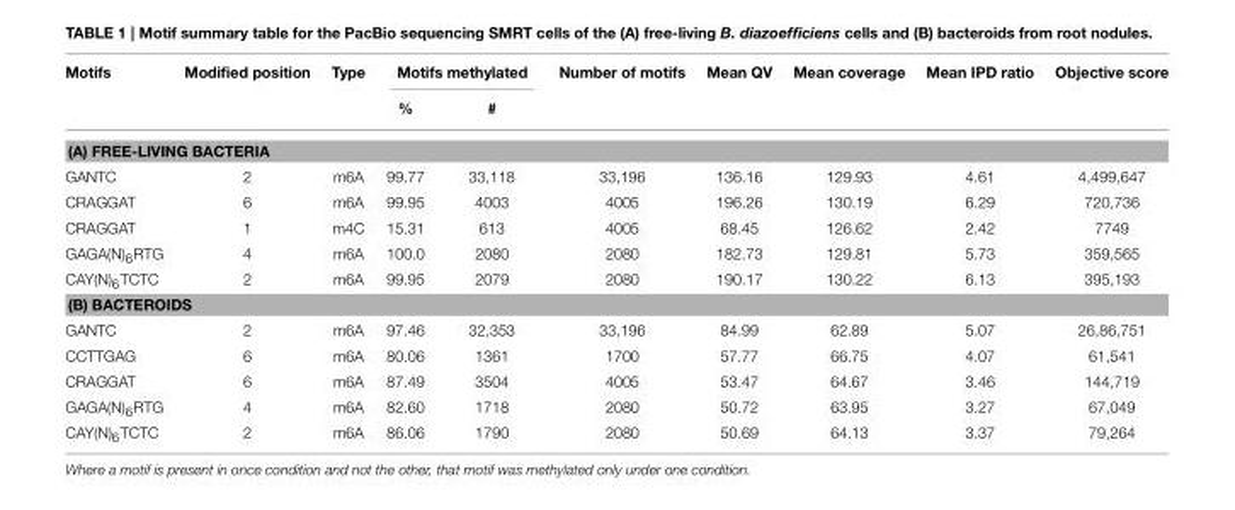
<table><thead><tr><td rowspan="2">Motifs</td><td rowspan="2">Modified position</td><td rowspan="2">Type</td><td colspan="2">Motifs methylated</td><td rowspan="2">Number of motifs</td><td rowspan="2">Mean QV</td><td rowspan="2">Mean coverage</td><td rowspan="2">Mean IPD ratio</td><td rowspan="2">Objective score</td></tr><tr><td>%</td><td>#</td></tr></thead><tbody><tr><td colspan="10">(A) FREE-LIVING BACTERIA</td></tr><tr><td>GANTC</td><td>2</td><td>m6A</td><td>99.77</td><td>33,118</td><td>33,196</td><td>136.16</td><td>129.93</td><td>4.61</td><td>4,499,647</td></tr><tr><td>CRAGGAT</td><td>6</td><td>m6A</td><td>99.95</td><td>4003</td><td>4005</td><td>196.26</td><td>130.19</td><td>6.29</td><td>720,736</td></tr><tr><td>CRAGGAT</td><td>1</td><td>m4C</td><td>15.31</td><td>613</td><td>4005</td><td>68.45</td><td>126.62</td><td>2.42</td><td>7749</td></tr><tr><td>GAGA(N)<sub>6</sub>RTG</td><td>4</td><td>m6A</td><td>100.0</td><td>2080</td><td>2080</td><td>182.73</td><td>129.81</td><td>5.73</td><td>359,565</td></tr><tr><td>CAY(N)<sub>6</sub>TCTC</td><td>2</td><td>m6A</td><td>99.95</td><td>2079</td><td>2080</td><td>190.17</td><td>130.22</td><td>6.13</td><td>395,193</td></tr><tr><td colspan="10">(B) BACTEROIDS</td></tr><tr><td>GANTC</td><td>2</td><td>m6A</td><td>97.46</td><td>32,353</td><td>33,196</td><td>84.99</td><td>62.89</td><td>5.07</td><td>26,86,751</td></tr><tr><td>CCTTGAG</td><td>6</td><td>m6A</td><td>80.06</td><td>1361</td><td>1700</td><td>57.77</td><td>66.75</td><td>4.07</td><td>61,541</td></tr><tr><td>CRAGGAT</td><td>6</td><td>m6A</td><td>87.49</td><td>3504</td><td>4005</td><td>53.47</td><td>64.67</td><td>3.46</td><td>144,719</td></tr><tr><td>GAGA(N)<sub>6</sub>RTG</td><td>4</td><td>m6A</td><td>82.60</td><td>1718</td><td>2080</td><td>50.72</td><td>63.95</td><td>3.27</td><td>67,049</td></tr><tr><td>CAY(N)<sub>6</sub>TCTC</td><td>2</td><td>m6A</td><td>86.06</td><td>1790</td><td>2080</td><td>50.69</td><td>64.13</td><td>3.37</td><td>79,264</td></tr></tbody></table>